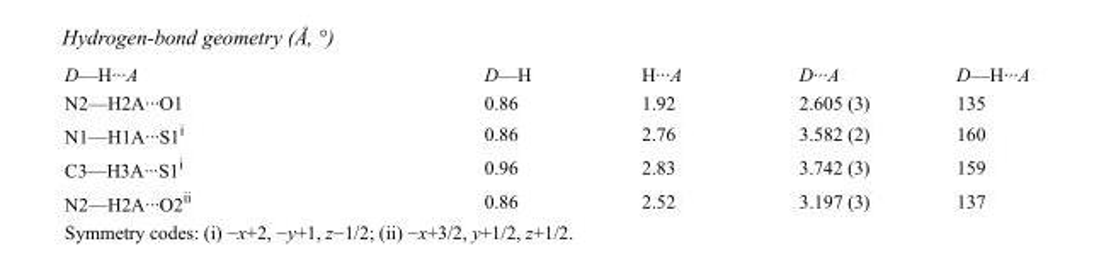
<table><tbody><tr><td>D—H···A</td><td>D—H</td><td>H···A</td><td>D···A</td><td>D—H···A</td></tr><tr><td>N2—H2A···O1</td><td>0.86</td><td>1.92</td><td>2.605 (3)</td><td>135</td></tr><tr><td>N1—H1A···S1<sup>i</sup></td><td>0.86</td><td>2.76</td><td>3.582 (2)</td><td>160</td></tr><tr><td>C3—H3A···S1<sup>i</sup></td><td>0.96</td><td>2.83</td><td>3.742 (3)</td><td>159</td></tr><tr><td>N2—H2A···O2<sup>ii</sup></td><td>0.86</td><td>2.52</td><td>3.197 (3)</td><td>137</td></tr></tbody></table>